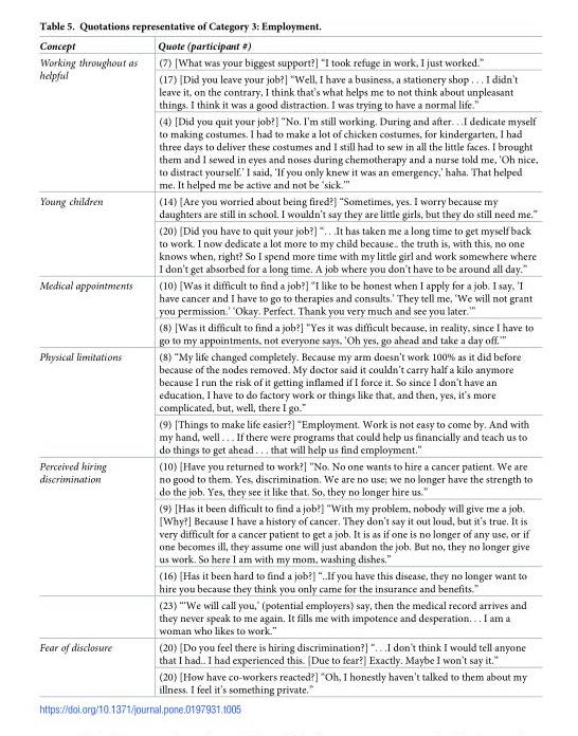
<table><thead><tr><td>Concept</td><td>Quote (participant #)</td></tr></thead><tbody><tr><td rowspan="3">Working throughout as helpful</td><td>(7) [What was your biggest support?] “I took refuge in work, I just worked.”</td></tr><tr><td>(17) [Did you leave your job?] “Well, I have a business, a stationery shop . . . I didn’t leave it, on the contrary, I think that’s what helps me to not think about unpleasant things. I think it was a good distraction. I was trying to have a normal life.”</td></tr><tr><td>(4) [Did you quit your job?] “No. I’m still working. During and after. . .I dedicate myself to making costumes. I had to make a lot of chicken costumes, for kindergarten, I had three days to deliver these costumes and I still had to sew in all the little faces. I brought them and I sewed in eyes and noses during chemotherapy and a nurse told me, ‘Oh nice, to distract yourself.’ I said, ‘If you only knew it was an emergency,’ haha. That helped me. It helped me be active and not be ‘sick.’”</td></tr><tr><td rowspan="2">Young children</td><td>(14) [Are you worried about being fired?] “Sometimes, yes. I worry because my daughters are still in school. I wouldn’t say they are little girls, but they do still need me.”</td></tr><tr><td>(20) [Did you have to quit your job?] “. . .It has taken me a long time to get myself back to work. I now dedicate a lot more to my child because.. the truth is, with this, no one knows when, right? So I spend more time with my little girl and work somewhere where I don’t get absorbed for a long time. A job where you don’t have to be around all day.”</td></tr><tr><td rowspan="2">Medical appointments</td><td>(10) [Was it difficult to find a job?] “I like to be honest when I apply for a job. I say, ‘I have cancer and I have to go to therapies and consults.’ They tell me, ‘We will not grant you permission.’ ‘Okay. Perfect. Thank you very much and see you later.’”</td></tr><tr><td>(8) [Was it difficult to find a job?] “Yes it was difficult because, in reality, since I have to go to my appointments, not everyone says, ‘Oh yes, go ahead and take a day off.’”</td></tr><tr><td rowspan="2">Physical limitations</td><td>(8) “My life changed completely. Because my arm doesn’t work 100% as it did before because of the nodes removed. My doctor said it couldn’t carry half a kilo anymore because I run the risk of it getting inflamed if I force it. So since I don’t have an education, I have to do factory work or things like that, and then, yes, it’s more complicated, but, well, there I go.”</td></tr><tr><td>(9) [Things to make life easier?] “Employment. Work is not easy to come by. And with my hand, well . . . If there were programs that could help us financially and teach us to do things to get ahead . . . that will help us find employment.”</td></tr><tr><td rowspan="4">Perceived hiring discrimination</td><td>(10) [Have you returned to work?] “No. No one wants to hire a cancer patient. We are no good to them. Yes, discrimination. We are no use; we no longer have the strength to do the job. Yes, they see it like that. So, they no longer hire us.”</td></tr><tr><td>(9) [Has it been difficult to find a job?] “With my problem, nobody will give me a job. [Why?] Because I have a history of cancer. They don’t say it out loud, but it’s true. It is very difficult for a cancer patient to get a job. It is as if one is no longer of any use, or if one becomes ill, they assume one will just abandon the job. But no, they no longer give us work. So here I am with my mom, washing dishes.”</td></tr><tr><td>(16) [Has it been hard to find a job?] “..If you have this disease, they no longer want to hire you because they think you only came for the insurance and benefits.”</td></tr><tr><td>(23) “‘We will call you,’ (potential employers) say, then the medical record arrives and they never speak to me again. It fills me with impotence and desperation. . . I am a woman who likes to work.”</td></tr><tr><td rowspan="2">Fear of disclosure</td><td>(20) [Do you feel there is hiring discrimination?] “. . .I don’t think I would tell anyone that I had.. I had experienced this. [Due to fear?] Exactly. Maybe I won’t say it.”</td></tr><tr><td>(20) [How have co-workers reacted?] “Oh, I honestly haven’t talked to them about my illness. I feel it’s something private.”</td></tr></tbody></table>